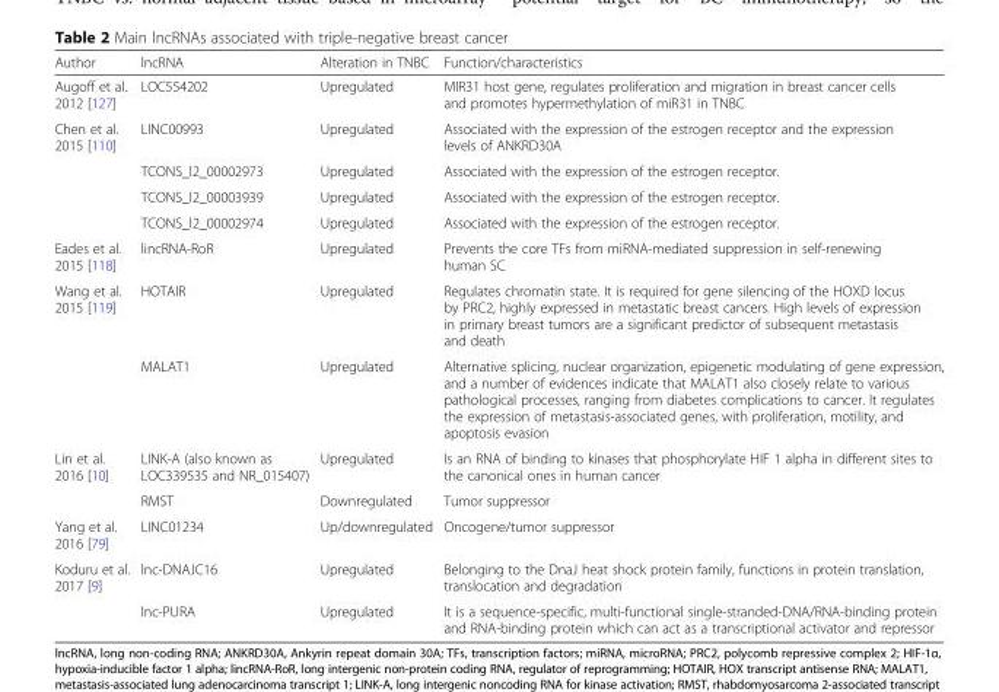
<table><thead><tr><td>Author</td><td>lncRNA</td><td>Alteration in TNBC</td><td>Function/characteristics</td></tr></thead><tbody><tr><td>Augoff et al. 2012 [127]</td><td>LOC554202</td><td>Upregulated</td><td>MIR31 host gene, regulates proliferation and migration in breast cancer cells and promotes hypermethylation of miR31 in TNBC</td></tr><tr><td rowspan="4">Chen et al. 2015 [110]</td><td>LINC00993</td><td>Upregulated</td><td>Associated with the expression of the estrogen receptor and the expression levels of ANKRD30A</td></tr><tr><td>TCONS_l2_00002973</td><td>Upregulated</td><td>Associated with the expression of the estrogen receptor.</td></tr><tr><td>TCONS_l2_00003939</td><td>Upregulated</td><td>Associated with the expression of the estrogen receptor.</td></tr><tr><td>TCONS_l2_00002974</td><td>Upregulated</td><td>Associated with the expression of the estrogen receptor.</td></tr><tr><td>Eades et al. 2015 [118]</td><td>lincRNA-RoR</td><td>Upregulated</td><td>Prevents the core TFs from miRNA-mediated suppression in self-renewing human SC</td></tr><tr><td rowspan="2">Wang et al. 2015 [119]</td><td>HOTAIR</td><td>Upregulated</td><td>Regulates chromatin state. It is required for gene silencing of the HOXD locus by PRC2, highly expressed in metastatic breast cancers. High levels of expression in primary breast tumors are a significant predictor of subsequent metastasis and death</td></tr><tr><td>MALAT1</td><td>Upregulated</td><td>Alternative splicing, nuclear organization, epigenetic modulating of gene expression, and a number of evidences indicate that MALAT1 also closely relate to various pathological processes, ranging from diabetes complications to cancer. It regulates the expression of metastasis-associated genes, with proliferation, motility, and apoptosis evasion</td></tr><tr><td rowspan="2">Lin et al. 2016 [10]</td><td>LINK-A (also known as LOC339535 and NR_015407)</td><td>Upregulated</td><td>Is an RNA of binding to kinases that phosphorylate HIF 1 alpha in different sites to the canonical ones in human cancer</td></tr><tr><td>RMST</td><td>Downregulated</td><td>Tumor suppressor</td></tr><tr><td>Yang et al. 2016 [79]</td><td>LINC01234</td><td>Up/downregulated</td><td>Oncogene/tumor suppressor</td></tr><tr><td rowspan="2">Koduru et al. 2017 [9]</td><td>lnc-DNAJC16</td><td>Upregulated</td><td>Belonging to the DnaJ heat shock protein family, functions in protein translation, translocation and degradation</td></tr><tr><td>lnc-PURA</td><td>Upregulated</td><td>It is a sequence-specific, multi-functional single-stranded-DNA/RNA-binding protein and RNA-binding protein which can act as a transcriptional activator and repressor</td></tr></tbody></table>